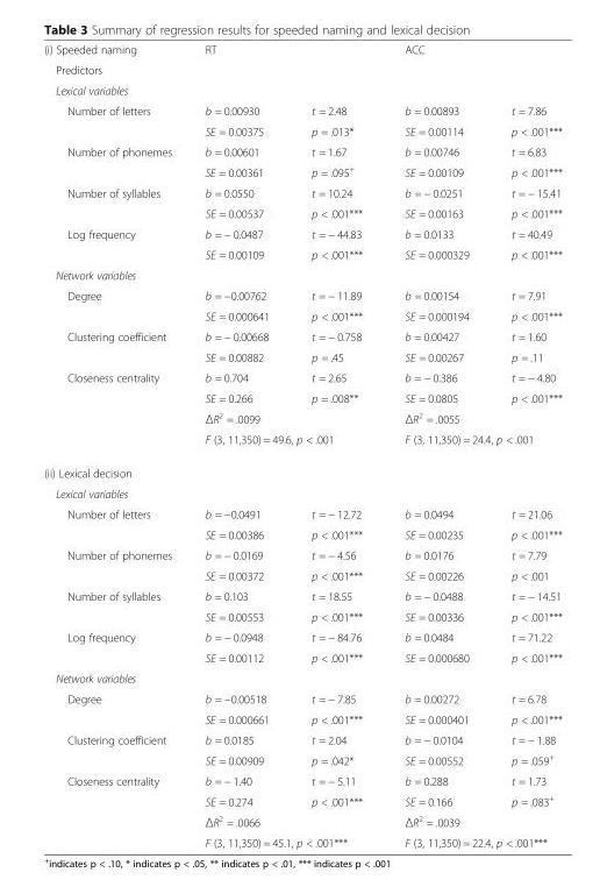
<table><tbody><tr><td>(i) Speeded naming</td><td colspan="2">RT</td><td colspan="2">ACC</td></tr><tr><td colspan="5">Predictors</td></tr><tr><td colspan="5">Lexical variables</td></tr><tr><td rowspan="2">Number of letters</td><td>b = 0.00930</td><td>t = 2.48</td><td>b = 0.00893</td><td>t = 7.86</td></tr><tr><td>SE = 0.00375</td><td>p = .013*</td><td>SE = 0.00114</td><td>p &lt; .001***</td></tr><tr><td rowspan="2">Number of phonemes</td><td>b = 0.00601</td><td>t = 1.67</td><td>b = 0.00746</td><td>t = 6.83</td></tr><tr><td>SE = 0.00361</td><td>p = .095<sup>+</sup></td><td>SE = 0.00109</td><td>p &lt; .001***</td></tr><tr><td rowspan="2">Number of syllables</td><td>b = 0.0550</td><td>t = 10.24</td><td>b = − 0.0251</td><td>t = − 15.41</td></tr><tr><td>SE = 0.00537</td><td>p &lt; .001***</td><td>SE = 0.00163</td><td>p &lt; .001***</td></tr><tr><td rowspan="2">Log frequency</td><td>b = − 0.0487</td><td>t = − 44.83</td><td>b = 0.0133</td><td>t = 40.49</td></tr><tr><td>SE = 0.00109</td><td>p &lt; .001***</td><td>SE = 0.000329</td><td>p &lt; .001***</td></tr><tr><td colspan="5">Network variables</td></tr><tr><td rowspan="2">Degree</td><td>b = −0.00762</td><td>t = − 11.89</td><td>b = 0.00154</td><td>t = 7.91</td></tr><tr><td>SE = 0.000641</td><td>p &lt; .001***</td><td>SE = 0.000194</td><td>p &lt; .001***</td></tr><tr><td rowspan="2">Clustering coefficient</td><td>b = − 0.00668</td><td>t = − 0.758</td><td>b = 0.00427</td><td>t = 1.60</td></tr><tr><td>SE = 0.00882</td><td>p = .45</td><td>SE = 0.00267</td><td>p = .11</td></tr><tr><td rowspan="4">Closeness centrality</td><td>b = 0.704</td><td>t = 2.65</td><td>b = − 0.386</td><td>t = − 4.80</td></tr><tr><td>SE = 0.266</td><td>p = .008**</td><td>SE = 0.0805</td><td>p &lt; .001***</td></tr><tr><td colspan="2">ΔR<sup>2</sup> = .0099</td><td colspan="2">ΔR<sup>2</sup> = .0055</td></tr><tr><td colspan="2">F (3, 11,350) = 49.6, p &lt; .001</td><td colspan="2">F (3, 11,350) = 24.4, p &lt; .001</td></tr><tr><td colspan="5">(ii) Lexical decision</td></tr><tr><td colspan="5">Lexical variables</td></tr><tr><td rowspan="2">Number of letters</td><td>b = −0.0491</td><td>t = − 12.72</td><td>b = 0.0494</td><td>t = 21.06</td></tr><tr><td>SE = 0.00386</td><td>p &lt; .001***</td><td>SE = 0.00235</td><td>p &lt; .001***</td></tr><tr><td rowspan="2">Number of phonemes</td><td>b = − 0.0169</td><td>t = − 4.56</td><td>b = 0.0176</td><td>t = 7.79</td></tr><tr><td>SE = 0.00372</td><td>p &lt; .001***</td><td>SE = 0.00226</td><td>p &lt; .001</td></tr><tr><td rowspan="2">Number of syllables</td><td>b = 0.103</td><td>t = 18.55</td><td>b = − 0.0488</td><td>t = − 14.51</td></tr><tr><td>SE = 0.00553</td><td>p &lt; .001***</td><td>SE = 0.00336</td><td>p &lt; .001***</td></tr><tr><td rowspan="2">Log frequency</td><td>b = − 0.0948</td><td>t = − 84.76</td><td>b = 0.0484</td><td>t = 71.22</td></tr><tr><td>SE = 0.00112</td><td>p &lt; .001***</td><td>SE = 0.000680</td><td>p &lt; .001***</td></tr><tr><td colspan="5">Network variables</td></tr><tr><td rowspan="2">Degree</td><td>b = −0.00518</td><td>t = − 7.85</td><td>b = 0.00272</td><td>t = 6.78</td></tr><tr><td>SE = 0.000661</td><td>p &lt; .001***</td><td>SE = 0.000401</td><td>p &lt; .001***</td></tr><tr><td rowspan="2">Clustering coefficient</td><td>b = 0.0185</td><td>t = 2.04</td><td>b = − 0.0104</td><td>t = − 1.88</td></tr><tr><td>SE = 0.00909</td><td>p = .042*</td><td>SE = 0.00552</td><td>p = .059<sup>+</sup></td></tr><tr><td rowspan="4">Closeness centrality</td><td>b = − 1.40</td><td>t = − 5.11</td><td>b = 0.288</td><td>t = 1.73</td></tr><tr><td>SE = 0.274</td><td>p &lt; .001***</td><td>SE = 0.166</td><td>p = .083<sup>+</sup></td></tr><tr><td colspan="2">ΔR<sup>2</sup> = .0066</td><td colspan="2">ΔR<sup>2</sup> = .0039</td></tr><tr><td colspan="2">F (3, 11,350) = 45.1, p &lt; .001***</td><td colspan="2">F (3, 11,350) = 22.4, p &lt; .001***</td></tr></tbody></table>